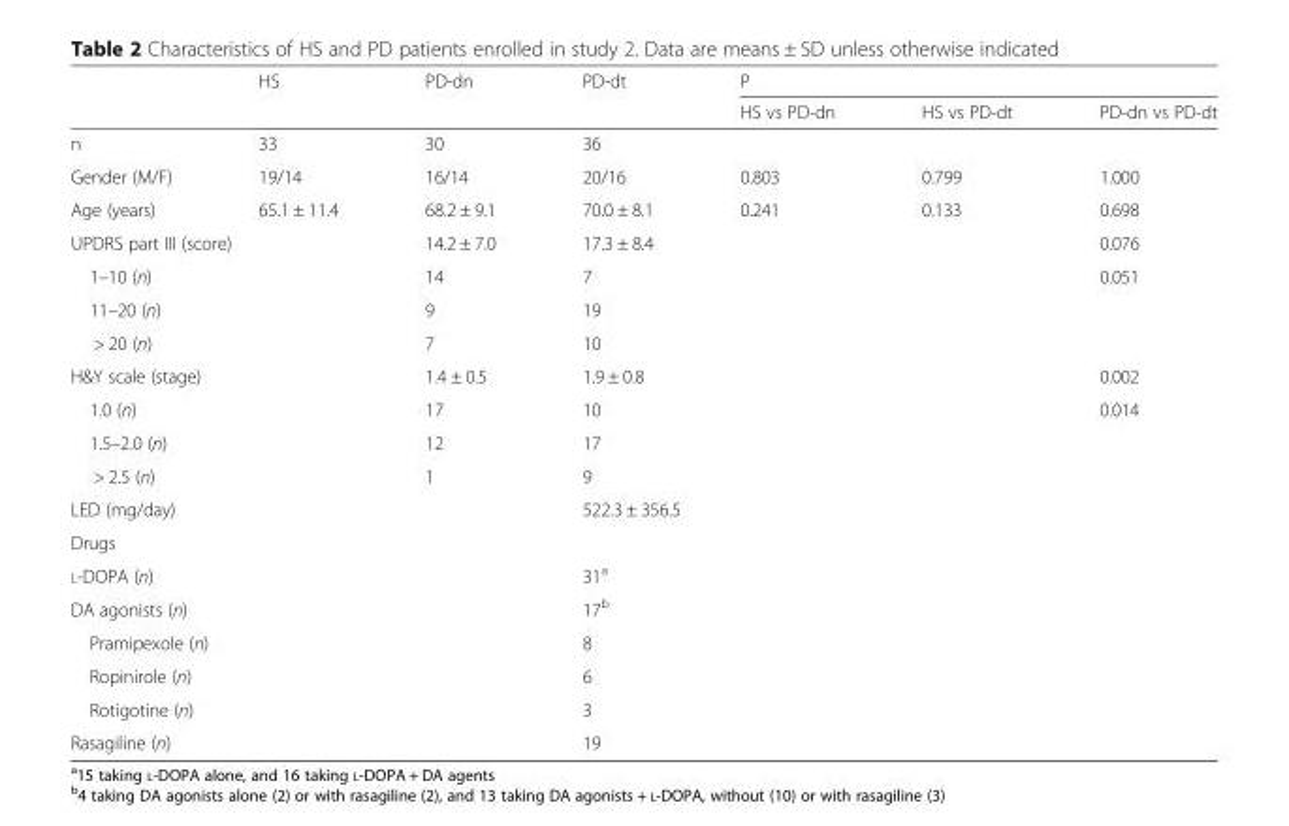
<table><thead><tr><td rowspan="2"></td><td rowspan="2">HS</td><td rowspan="2">PD-dn</td><td rowspan="2">PD-dt</td><td colspan="3">P</td></tr><tr><td>HS vs PD-dn</td><td>HS vs PD-dt</td><td>PD-dn vs PD-dt</td></tr></thead><tbody><tr><td>n</td><td>33</td><td>30</td><td colspan="4">36</td></tr><tr><td>Gender (M/F)</td><td>19/14</td><td>16/14</td><td>20/16</td><td>0.803</td><td>0.799</td><td>1.000</td></tr><tr><td>Age (years)</td><td>65.1 ± 11.4</td><td>68.2 ± 9.1</td><td>70.0 ± 8.1</td><td>0.241</td><td>0.133</td><td>0.698</td></tr><tr><td colspan="2">UPDRS part III (score)</td><td>14.2 ± 7.0</td><td colspan="3">17.3 ± 8.4</td><td>0.076</td></tr><tr><td colspan="2">1–10 (n)</td><td>14</td><td colspan="3">7</td><td>0.051</td></tr><tr><td colspan="2">11–20 (n)</td><td>9</td><td colspan="4">19</td></tr><tr><td colspan="2">&gt; 20 (n)</td><td>7</td><td colspan="4">10</td></tr><tr><td colspan="2">H&amp;Y scale (stage)</td><td>1.4 ± 0.5</td><td colspan="3">1.9 ± 0.8</td><td>0.002</td></tr><tr><td colspan="2">1.0 (n)</td><td>17</td><td colspan="3">10</td><td>0.014</td></tr><tr><td colspan="2">1.5–2.0 (n)</td><td>12</td><td colspan="4">17</td></tr><tr><td colspan="2">&gt; 2.5 (n)</td><td>1</td><td colspan="4">9</td></tr><tr><td colspan="3">LED (mg/day)</td><td colspan="4">522.3 ± 356.5</td></tr><tr><td colspan="7">Drugs</td></tr><tr><td colspan="3">L-DOPA (n)</td><td colspan="4">31<sup>a</sup></td></tr><tr><td colspan="3">DA agonists (n)</td><td colspan="4">17<sup>b</sup></td></tr><tr><td colspan="3">Pramipexole (n)</td><td colspan="4">8</td></tr><tr><td colspan="3">Ropinirole (n)</td><td colspan="4">6</td></tr><tr><td colspan="3">Rotigotine (n)</td><td colspan="4">3</td></tr><tr><td colspan="3">Rasagiline (n)</td><td colspan="4">19</td></tr></tbody></table>